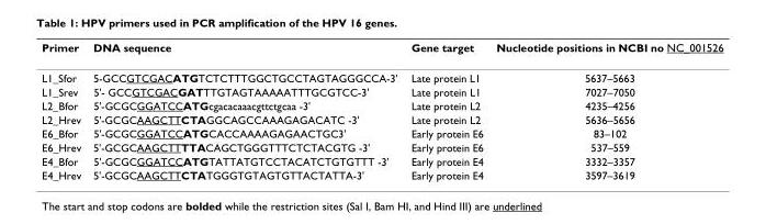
<table><thead><tr><td>Primer</td><td>DNA sequence</td><td>Gene target</td><td>Nucleotide positions in NCBI no NC_001526</td></tr></thead><tbody><tr><td>L1_Sfor</td><td>5-GCCGTCGACATGTCTCTTTGGCTGCCTAGTAGGGCCA-3&#x27;</td><td>Late protein L1</td><td>5637–5663</td></tr><tr><td>L1_Srev</td><td>5&#x27;- GCCGTCGACGATTTGTAGTAAAAATTTGCGTCC-3&#x27;</td><td>Late protein L1</td><td>7027–7050</td></tr><tr><td>L2_Bfor</td><td>5&#x27;-GCGCGGATCCATGcgacacaaacgttctgcaa -3&#x27;</td><td>Late protein L2</td><td>4235–4256</td></tr><tr><td>L2_Hrev</td><td>5&#x27;-GCGCAAGCTTCTAGGCAGCCAAAGAGACATC -3&#x27;</td><td>Late protein L2</td><td>5636–5656</td></tr><tr><td>E6_Bfor</td><td>5&#x27;-GCGCGGATCCATGCACCAAAAGAGAACTGC3&#x27;</td><td>Early protein E6</td><td>83–102</td></tr><tr><td>E6_Hrev</td><td>5&#x27;-GCGCAAGCTTTTACAGCTGGGTTTCTCTACGTG -3&#x27;</td><td>Early protein E6</td><td>537–559</td></tr><tr><td>E4_Bfor</td><td>5&#x27;-GCGCGGATCCATGTATTATGTCCTACATCTGTGTTT -3&#x27;</td><td>Early protein E4</td><td>3332–3357</td></tr><tr><td>E4_Hrev</td><td>5&#x27;-GCGCAAGCTTCTATGGGTGTAGTGTTACTATTA-3&#x27;</td><td>Early protein E4</td><td>3597–3619</td></tr></tbody></table>